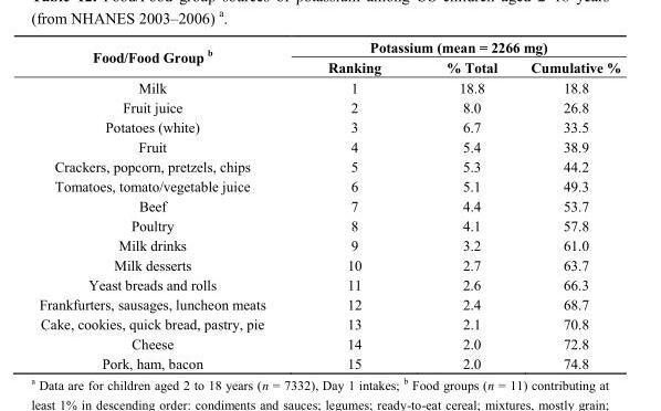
<table><thead><tr><td rowspan="2">Food/Food Group <sup>b</sup></td><td colspan="3">Potassium (mean = 2266 mg)</td></tr><tr><td>Ranking</td><td>% Total</td><td>Cumulative %</td></tr></thead><tbody><tr><td>Milk</td><td>1</td><td>18.8</td><td>18.8</td></tr><tr><td>Fruit juice</td><td>2</td><td>8.0</td><td>26.8</td></tr><tr><td>Potatoes (white)</td><td>3</td><td>6.7</td><td>33.5</td></tr><tr><td>Fruit</td><td>4</td><td>5.4</td><td>38.9</td></tr><tr><td>Crackers, popcorn, pretzels, chips</td><td>5</td><td>5.3</td><td>44.2</td></tr><tr><td>Tomatoes, tomato/vegetable juice</td><td>6</td><td>5.1</td><td>49.3</td></tr><tr><td>Beef</td><td>7</td><td>4.4</td><td>53.7</td></tr><tr><td>Poultry</td><td>8</td><td>4.1</td><td>57.8</td></tr><tr><td>Milk drinks</td><td>9</td><td>3.2</td><td>61.0</td></tr><tr><td>Milk desserts</td><td>10</td><td>2.7</td><td>63.7</td></tr><tr><td>Yeast breads and rolls</td><td>11</td><td>2.6</td><td>66.3</td></tr><tr><td>Frankfurters, sausages, luncheon meats</td><td>12</td><td>2.4</td><td>68.7</td></tr><tr><td>Cake, cookies, quick bread, pastry, pie</td><td>13</td><td>2.1</td><td>70.8</td></tr><tr><td>Cheese</td><td>14</td><td>2.0</td><td>72.8</td></tr><tr><td>Pork, ham, bacon</td><td>15</td><td>2.0</td><td>74.8</td></tr></tbody></table>